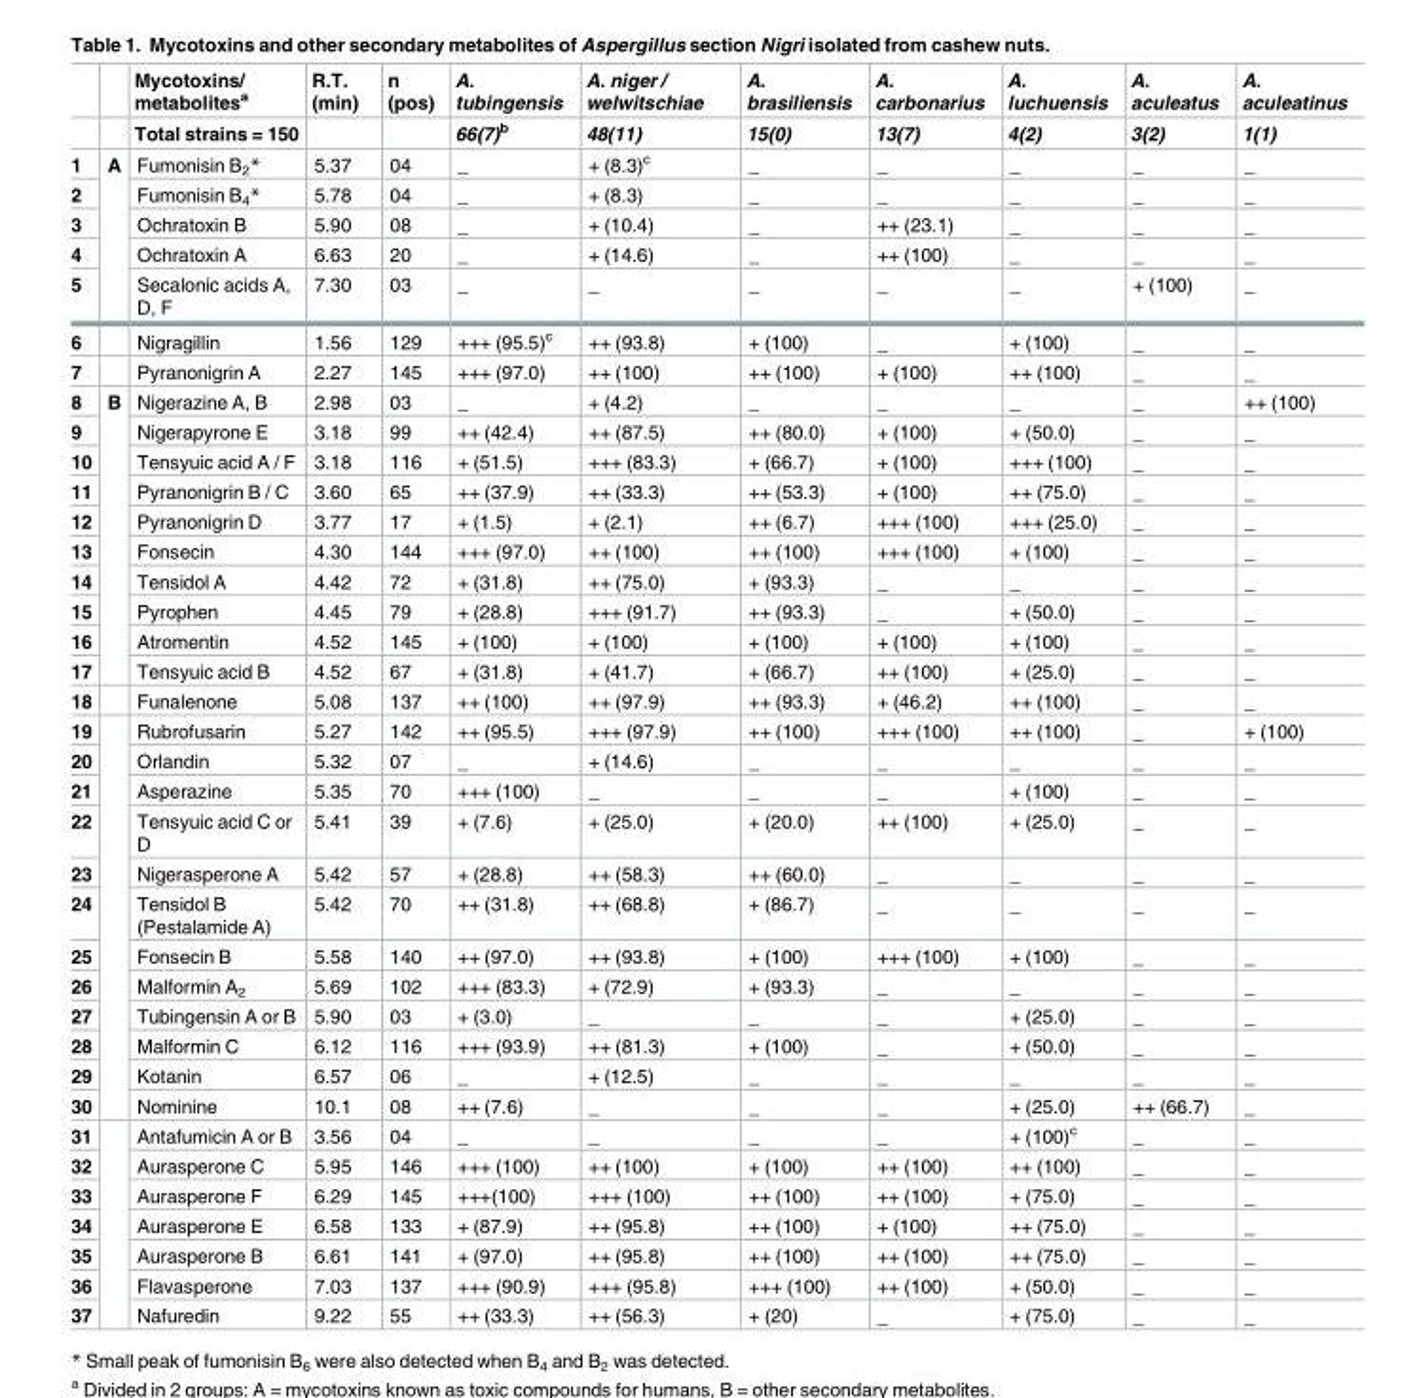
<table><thead><tr><td rowspan="2"></td><td rowspan="2"></td><td rowspan="2">Mycotoxins/ metabolites<sup>a</sup> Total strains = 150</td><td rowspan="2">R.T. (min)</td><td rowspan="2">n (pos)</td><td rowspan="2">A. tubingensis 66(7)<sup>b</sup></td><td rowspan="2">A. niger / welwitschiae 48(11)</td><td rowspan="2">A. brasiliensis 15(0)</td><td rowspan="2">A. carbonarius 13(7)</td><td rowspan="2">A. luchuensis 4(2)</td><td rowspan="2">A. aculeatus 3(2)</td><td rowspan="2">A. aculeatinus 1(1)</td></tr><tr></tr></thead><tbody><tr><td>1</td><td rowspan="5">A</td><td>Fumonisin B<sub>2</sub>*</td><td>5.37</td><td>04</td><td>_</td><td>+ (8.3)<sup>c</sup></td><td>_</td><td>_</td><td>_</td><td>_</td><td>_</td></tr><tr><td>2</td><td>Fumonisin B<sub>4</sub>*</td><td>5.78</td><td>04</td><td>_</td><td>+ (8.3)</td><td>_</td><td>_</td><td>_</td><td>_</td><td>_</td></tr><tr><td>3</td><td>Ochratoxin B</td><td>5.90</td><td>08</td><td>_</td><td>+ (10.4)</td><td>_</td><td>++ (23.1)</td><td>_</td><td>_</td><td>_</td></tr><tr><td>4</td><td>Ochratoxin A</td><td>6.63</td><td>20</td><td>_</td><td>+ (14.6)</td><td>_</td><td>++ (100)</td><td>_</td><td>_</td><td>_</td></tr><tr><td>5</td><td>Secalonic acids A, D, F</td><td>7.30</td><td>03</td><td>_</td><td>_</td><td>_</td><td>_</td><td>_</td><td>+ (100)</td><td>_</td></tr><tr><td>6</td><td></td><td>Nigragillin</td><td>1.56</td><td>129</td><td>+++ (95.5)<sup>c</sup></td><td>++ (93.8)</td><td>+ (100)</td><td>_</td><td>+ (100)</td><td>_</td><td>_</td></tr><tr><td>7</td><td></td><td>Pyranonigrin A</td><td>2.27</td><td>145</td><td>+++ (97.0)</td><td>++ (100)</td><td>++ (100)</td><td>+ (100)</td><td>++ (100)</td><td>_</td><td>_</td></tr><tr><td>8</td><td rowspan="10">B</td><td>Nigerazine A, B</td><td>2.98</td><td>03</td><td>_</td><td>+ (4.2)</td><td>_</td><td>_</td><td>_</td><td>_</td><td>++ (100)</td></tr><tr><td>9</td><td>Nigerapyrone E</td><td>3.18</td><td>99</td><td>++ (42.4)</td><td>++ (87.5)</td><td>++ (80.0)</td><td>+ (100)</td><td>+ (50.0)</td><td>_</td><td>_</td></tr><tr><td>10</td><td>Tensyuic acid A / F</td><td>3.18</td><td>116</td><td>+ (51.5)</td><td>+++ (83.3)</td><td>+ (66.7)</td><td>+ (100)</td><td>+++ (100)</td><td>_</td><td>_</td></tr><tr><td>11</td><td>Pyranonigrin B / C</td><td>3.60</td><td>65</td><td>++ (37.9)</td><td>++ (33.3)</td><td>++ (53.3)</td><td>+ (100)</td><td>++ (75.0)</td><td>_</td><td>_</td></tr><tr><td>12</td><td>Pyranonigrin D</td><td>3.77</td><td>17</td><td>+ (1.5)</td><td>+ (2.1)</td><td>++ (6.7)</td><td>+++ (100)</td><td>+++ (25.0)</td><td>_</td><td>_</td></tr><tr><td>13</td><td>Fonsecin</td><td>4.30</td><td>144</td><td>+++ (97.0)</td><td>++ (100)</td><td>++ (100)</td><td>+++ (100)</td><td>+ (100)</td><td>_</td><td>_</td></tr><tr><td>14</td><td>Tensidol A</td><td>4.42</td><td>72</td><td>+ (31.8)</td><td>++ (75.0)</td><td>+ (93.3)</td><td>_</td><td>_</td><td>_</td><td>_</td></tr><tr><td>15</td><td>Pyrophen</td><td>4.45</td><td>79</td><td>+ (28.8)</td><td>+++ (91.7)</td><td>++ (93.3)</td><td>_</td><td>+ (50.0)</td><td>_</td><td>_</td></tr><tr><td>16</td><td>Atromentin</td><td>4.52</td><td>145</td><td>+ (100)</td><td>+ (100)</td><td>+ (100)</td><td>+ (100)</td><td>+ (100)</td><td>_</td><td>_</td></tr><tr><td>17</td><td>Tensyuic acid B</td><td>4.52</td><td>67</td><td>+ (31.8)</td><td>+ (41.7)</td><td>+ (66.7)</td><td>++ (100)</td><td>+ (25.0)</td><td>_</td><td>_</td></tr><tr><td>18</td><td></td><td>Funalenone</td><td>5.08</td><td>137</td><td>++ (100)</td><td>++ (97.9)</td><td>++ (93.3)</td><td>+ (46.2)</td><td>++ (100)</td><td>_</td><td>_</td></tr><tr><td>19</td><td rowspan="12"></td><td>Rubrofusarin</td><td>5.27</td><td>142</td><td>++ (95.5)</td><td>+++ (97.9)</td><td>++ (100)</td><td>+++ (100)</td><td>++ (100)</td><td>_</td><td>+ (100)</td></tr><tr><td>20</td><td>Orlandin</td><td>5.32</td><td>07</td><td>_</td><td>+ (14.6)</td><td>_</td><td>_</td><td>_</td><td>_</td><td>_</td></tr><tr><td>21</td><td>Asperazine</td><td>5.35</td><td>70</td><td>+++ (100)</td><td>_</td><td>_</td><td>_</td><td>+ (100)</td><td>_</td><td>_</td></tr><tr><td>22</td><td>Tensyuic acid C or D</td><td>5.41</td><td>39</td><td>+ (7.6)</td><td>+ (25.0)</td><td>+ (20.0)</td><td>++ (100)</td><td>+ (25.0)</td><td>_</td><td>_</td></tr><tr><td>23</td><td>Nigerasperone A</td><td>5.42</td><td>57</td><td>+ (28.8)</td><td>++ (58.3)</td><td>++ (60.0)</td><td>_</td><td>_</td><td>_</td><td>_</td></tr><tr><td>24</td><td>Tensidol B (Pestalamide A)</td><td>5.42</td><td>70</td><td>++ (31.8)</td><td>++ (68.8)</td><td>+ (86.7)</td><td>_</td><td>_</td><td>_</td><td>_</td></tr><tr><td>25</td><td>Fonsecin B</td><td>5.58</td><td>140</td><td>++ (97.0)</td><td>++ (93.8)</td><td>+ (100)</td><td>+++ (100)</td><td>+ (100)</td><td>_</td><td>_</td></tr><tr><td>26</td><td>Malformin A<sub>2</sub></td><td>5.69</td><td>102</td><td>+++ (83.3)</td><td>+ (72.9)</td><td>+ (93.3)</td><td>_</td><td>_</td><td>_</td><td>_</td></tr><tr><td>27</td><td>Tubingensin A or B</td><td>5.90</td><td>03</td><td>+ (3.0)</td><td>_</td><td>_</td><td>_</td><td>+ (25.0)</td><td>_</td><td>_</td></tr><tr><td>28</td><td>Malformin C</td><td>6.12</td><td>116</td><td>+++ (93.9)</td><td>++ (81.3)</td><td>+ (100)</td><td>_</td><td>+ (50.0)</td><td>_</td><td>_</td></tr><tr><td>29</td><td>Kotanin</td><td>6.57</td><td>06</td><td>_</td><td>+ (12.5)</td><td>_</td><td>_</td><td>_</td><td>_</td><td>_</td></tr><tr><td>30</td><td>Nominine</td><td>10.1</td><td>08</td><td>++ (7.6)</td><td>_</td><td>_</td><td>_</td><td>+ (25.0)</td><td>++ (66.7)</td><td>_</td></tr><tr><td>31</td><td rowspan="7"></td><td>Antafumicin A or B</td><td>3.56</td><td>04</td><td>_</td><td>_</td><td>_</td><td>_</td><td>+ (100)<sup>c</sup></td><td>_</td><td>_</td></tr><tr><td>32</td><td>Aurasperone C</td><td>5.95</td><td>146</td><td>+++ (100)</td><td>++ (100)</td><td>+ (100)</td><td>++ (100)</td><td>++ (100)</td><td>_</td><td>_</td></tr><tr><td>33</td><td>Aurasperone F</td><td>6.29</td><td>145</td><td>+++(100)</td><td>+++ (100)</td><td>++ (100)</td><td>++ (100)</td><td>+ (75.0)</td><td>_</td><td>_</td></tr><tr><td>34</td><td>Aurasperone E</td><td>6.58</td><td>133</td><td>+ (87.9)</td><td>++ (95.8)</td><td>++ (100)</td><td>+ (100)</td><td>++ (75.0)</td><td>_</td><td>_</td></tr><tr><td>35</td><td>Aurasperone B</td><td>6.61</td><td>141</td><td>+ (97.0)</td><td>++ (95.8)</td><td>++ (100)</td><td>++ (100)</td><td>++ (75.0)</td><td>_</td><td>_</td></tr><tr><td>36</td><td>Flavasperone</td><td>7.03</td><td>137</td><td>+++ (90.9)</td><td>+++ (95.8)</td><td>+++ (100)</td><td>++ (100)</td><td>+ (50.0)</td><td>_</td><td>_</td></tr><tr><td>37</td><td>Nafuredin</td><td>9.22</td><td>55</td><td>++ (33.3)</td><td>++ (56.3)</td><td>+ (20)</td><td>_</td><td>+ (75.0)</td><td>_</td><td>_</td></tr></tbody></table>